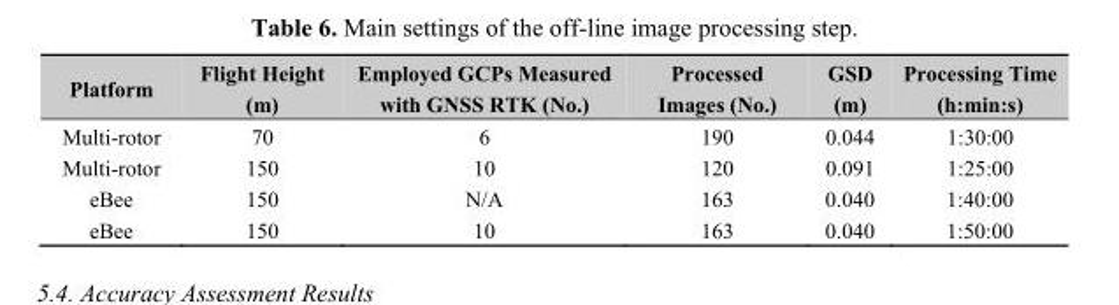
<table><thead><tr><td>Platform</td><td>Flight Height (m)</td><td>Employed GCPs Measured with GNSS RTK (No.)</td><td>Processed Images (No.)</td><td>GSD (m)</td><td>Processing Time (h:min:s)</td></tr></thead><tbody><tr><td>Multi-rotor</td><td>70</td><td>6</td><td>190</td><td>0.044</td><td>1:30:00</td></tr><tr><td>Multi-rotor</td><td>150</td><td>10</td><td>120</td><td>0.091</td><td>1:25:00</td></tr><tr><td>eBee</td><td>150</td><td>N/A</td><td>163</td><td>0.040</td><td>1:40:00</td></tr><tr><td>eBee</td><td>150</td><td>10</td><td>163</td><td>0.040</td><td>1:50:00</td></tr></tbody></table>